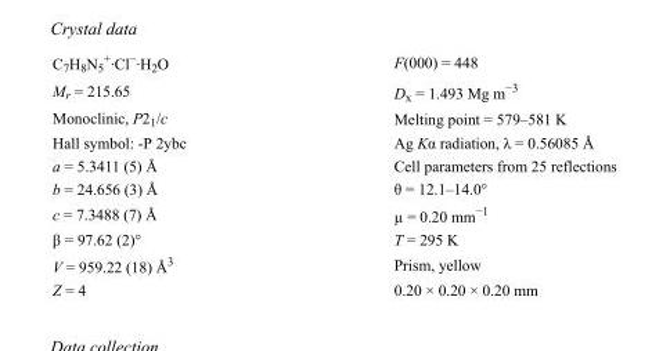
<table><tbody><tr><td>C<sub>7</sub>H<sub>8</sub>N<sub>5</sub> <sup>+</sup>·Cl<sup>−</sup>·H<sub>2</sub>O</td><td>F(000) = 448</td></tr><tr><td>M<sub>r</sub> = 215.65</td><td>D<sub>x</sub> = 1.493 Mg m<sup>−3</sup></td></tr><tr><td>Monoclinic, P2<sub>1</sub>/c</td><td>Melting point = 579–581 K</td></tr><tr><td>Hall symbol: -P 2ybc</td><td>Ag Kα radiation, λ = 0.56085 Å</td></tr><tr><td>a = 5.3411 (5) Å</td><td>Cell parameters from 25 reflections</td></tr><tr><td>b = 24.656 (3) Å</td><td>θ = 12.1–14.0°</td></tr><tr><td>c = 7.3488 (7) Å</td><td>µ = 0.20 mm<sup>−1</sup></td></tr><tr><td>β = 97.62 (2)°</td><td>T = 295 K</td></tr><tr><td>V = 959.22 (18) Å<sup>3</sup></td><td>Prism, yellow</td></tr><tr><td>Z = 4</td><td>0.20 × 0.20 × 0.20 mm</td></tr></tbody></table>